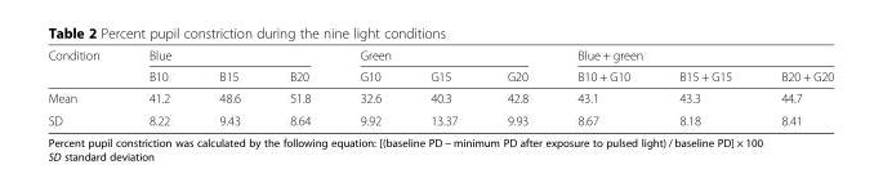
<table><thead><tr><td rowspan="2">Condition</td><td colspan="3">Blue</td><td colspan="3">Green</td><td colspan="3">Blue + green</td></tr><tr><td>B10</td><td>B15</td><td>B20</td><td>G10</td><td>G15</td><td>G20</td><td>B10 + G10</td><td>B15 + G15</td><td>B20 + G20</td></tr></thead><tbody><tr><td>Mean</td><td>41.2</td><td>48.6</td><td>51.8</td><td>32.6</td><td>40.3</td><td>42.8</td><td>43.1</td><td>43.3</td><td>44.7</td></tr><tr><td>SD</td><td>8.22</td><td>9.43</td><td>8.64</td><td>9.92</td><td>13.37</td><td>9.93</td><td>8.67</td><td>8.18</td><td>8.41</td></tr></tbody></table>